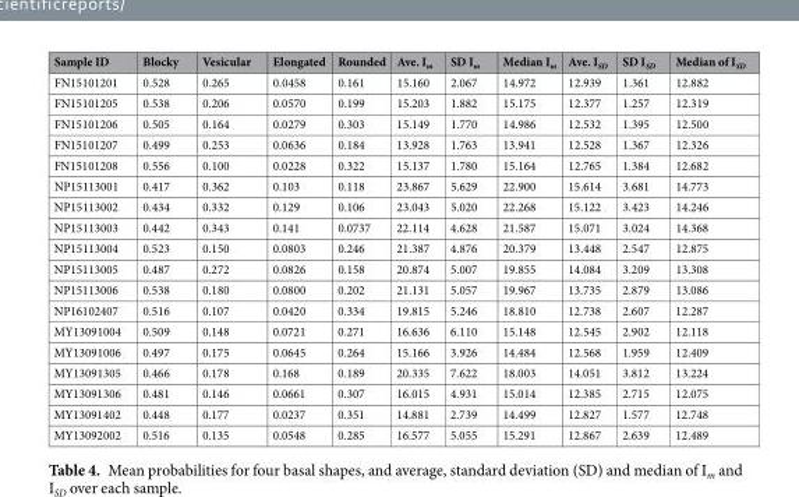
<table><thead><tr><td>Sample ID</td><td>Blocky</td><td>Vesicular</td><td>Elongated</td><td>Rounded</td><td>Ave. I<sub>m</sub></td><td>SD I<sub>m</sub></td><td>Median I<sub>m</sub></td><td>Ave. I<sub>SD</sub></td><td>SD I<sub>SD</sub></td><td>Median of I<sub>SD</sub></td></tr></thead><tbody><tr><td>FN15101201</td><td>0.528</td><td>0.265</td><td>0.0458</td><td>0.161</td><td>15.160</td><td>2.067</td><td>14.972</td><td>12.939</td><td>1.361</td><td>12.882</td></tr><tr><td>FN15101205</td><td>0.538</td><td>0.206</td><td>0.0570</td><td>0.199</td><td>15.203</td><td>1.882</td><td>15.175</td><td>12.377</td><td>1.257</td><td>12.319</td></tr><tr><td>FN15101206</td><td>0.505</td><td>0.164</td><td>0.0279</td><td>0.303</td><td>15.149</td><td>1.770</td><td>14.986</td><td>12.532</td><td>1.395</td><td>12.500</td></tr><tr><td>FN15101207</td><td>0.499</td><td>0.253</td><td>0.0636</td><td>0.184</td><td>13.928</td><td>1.763</td><td>13.941</td><td>12.528</td><td>1.367</td><td>12.326</td></tr><tr><td>FN15101208</td><td>0.556</td><td>0.100</td><td>0.0228</td><td>0.322</td><td>15.137</td><td>1.780</td><td>15.164</td><td>12.765</td><td>1.384</td><td>12.682</td></tr><tr><td>NP15113001</td><td>0.417</td><td>0.362</td><td>0.103</td><td>0.118</td><td>23.867</td><td>5.629</td><td>22.900</td><td>15.614</td><td>3.681</td><td>14.773</td></tr><tr><td>NP15113002</td><td>0.434</td><td>0.332</td><td>0.129</td><td>0.106</td><td>23.043</td><td>5.020</td><td>22.268</td><td>15.122</td><td>3.423</td><td>14.246</td></tr><tr><td>NP15113003</td><td>0.442</td><td>0.343</td><td>0.141</td><td>0.0737</td><td>22.114</td><td>4.628</td><td>21.587</td><td>15.071</td><td>3.024</td><td>14.368</td></tr><tr><td>NP15113004</td><td>0.523</td><td>0.150</td><td>0.0803</td><td>0.246</td><td>21.387</td><td>4.876</td><td>20.379</td><td>13.448</td><td>2.547</td><td>12.875</td></tr><tr><td>NP15113005</td><td>0.487</td><td>0.272</td><td>0.0826</td><td>0.158</td><td>20.874</td><td>5.007</td><td>19.855</td><td>14.084</td><td>3.209</td><td>13.308</td></tr><tr><td>NP15113006</td><td>0.538</td><td>0.180</td><td>0.0800</td><td>0.202</td><td>21.131</td><td>5.057</td><td>19.967</td><td>13.735</td><td>2.879</td><td>13.086</td></tr><tr><td>NP16102407</td><td>0.516</td><td>0.107</td><td>0.0420</td><td>0.334</td><td>19.815</td><td>5.246</td><td>18.810</td><td>12.738</td><td>2.607</td><td>12.287</td></tr><tr><td>MY13091004</td><td>0.509</td><td>0.148</td><td>0.0721</td><td>0.271</td><td>16.636</td><td>6.110</td><td>15.148</td><td>12.545</td><td>2.902</td><td>12.118</td></tr><tr><td>MY13091006</td><td>0.497</td><td>0.175</td><td>0.0645</td><td>0.264</td><td>15.166</td><td>3.926</td><td>14.484</td><td>12.568</td><td>1.959</td><td>12.409</td></tr><tr><td>MY13091305</td><td>0.466</td><td>0.178</td><td>0.168</td><td>0.189</td><td>20.335</td><td>7.622</td><td>18.003</td><td>14.051</td><td>3.812</td><td>13.224</td></tr><tr><td>MY13091306</td><td>0.481</td><td>0.146</td><td>0.0661</td><td>0.307</td><td>16.015</td><td>4.931</td><td>15.014</td><td>12.385</td><td>2.715</td><td>12.075</td></tr><tr><td>MY13091402</td><td>0.448</td><td>0.177</td><td>0.0237</td><td>0.351</td><td>14.881</td><td>2.739</td><td>14.499</td><td>12.827</td><td>1.577</td><td>12.748</td></tr><tr><td>MY13092002</td><td>0.516</td><td>0.135</td><td>0.0548</td><td>0.285</td><td>16.577</td><td>5.055</td><td>15.291</td><td>12.867</td><td>2.639</td><td>12.489</td></tr></tbody></table>